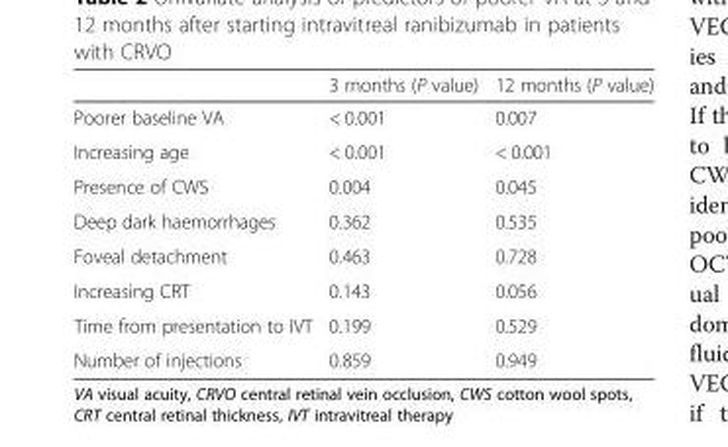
<table><thead><tr><td></td><td>3 months (P value)</td><td>12 months (P value)</td></tr></thead><tbody><tr><td>Poorer baseline VA</td><td>&lt; 0.001</td><td>0.007</td></tr><tr><td>Increasing age</td><td>&lt; 0.001</td><td>&lt; 0.001</td></tr><tr><td>Presence of CWS</td><td>0.004</td><td>0.045</td></tr><tr><td>Deep dark haemorrhages</td><td>0.362</td><td>0.535</td></tr><tr><td>Foveal detachment</td><td>0.463</td><td>0.728</td></tr><tr><td>Increasing CRT</td><td>0.143</td><td>0.056</td></tr><tr><td>Time from presentation to IVT</td><td>0.199</td><td>0.529</td></tr><tr><td>Number of injections</td><td>0.859</td><td>0.949</td></tr></tbody></table>